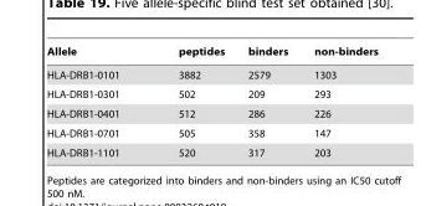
<table><thead><tr><td>Allele</td><td>peptides</td><td>binders</td><td>non-binders</td></tr></thead><tbody><tr><td>HLA-DRB1-0101</td><td>3882</td><td>2579</td><td>1303</td></tr><tr><td>HLA-DRB1-0301</td><td>502</td><td>209</td><td>293</td></tr><tr><td>HLA-DRB1-0401</td><td>512</td><td>286</td><td>226</td></tr><tr><td>HLA-DRB1-0701</td><td>505</td><td>358</td><td>147</td></tr><tr><td>HLA-DRB1-1101</td><td>520</td><td>317</td><td>203</td></tr></tbody></table>